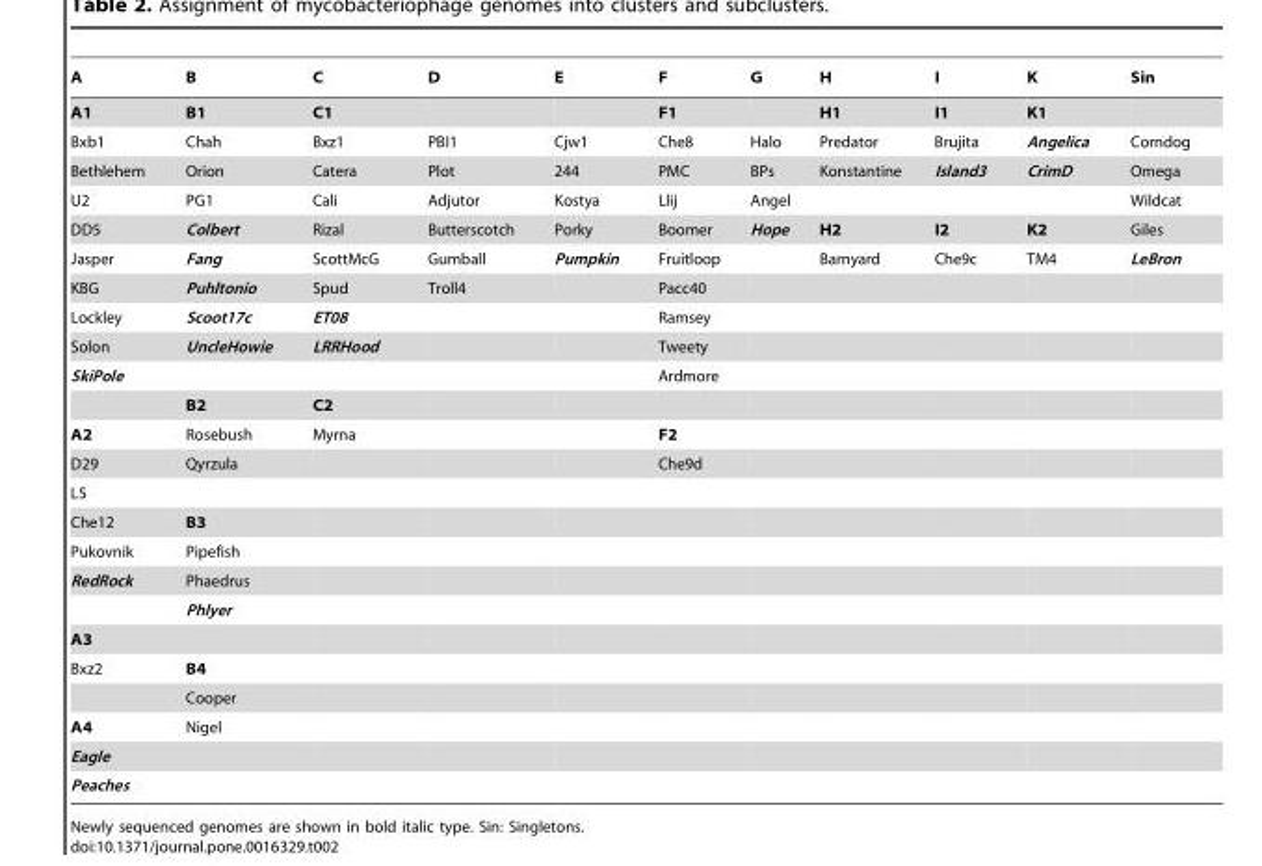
<table><thead><tr><td>A</td><td>B</td><td>C</td><td>D</td><td>E</td><td>F</td><td>G</td><td>H</td><td>I</td><td>K</td><td>Sin</td></tr></thead><tbody><tr><td>A1</td><td>B1</td><td>C1</td><td></td><td></td><td>F1</td><td></td><td>H1</td><td>I1</td><td>K1</td><td></td></tr><tr><td>Bxb1</td><td>Chah</td><td>Bxz1</td><td>PBI1</td><td>Cjw1</td><td>Che8</td><td>Halo</td><td>Predator</td><td>Brujita</td><td>Angelica</td><td>Corndog</td></tr><tr><td>Bethlehem</td><td>Orion</td><td>Catera</td><td>Plot</td><td>244</td><td>PMC</td><td>BPs</td><td>Konstantine</td><td>Island3</td><td>CrimD</td><td>Omega</td></tr><tr><td>U2</td><td>PG1</td><td>Cali</td><td>Adjutor</td><td>Kostya</td><td>Llij</td><td>Angel</td><td></td><td></td><td></td><td>Wildcat</td></tr><tr><td>DD5</td><td>Colbert</td><td>Rizal</td><td>Butterscotch</td><td>Porky</td><td>Boomer</td><td>Hope</td><td>H2</td><td>I2</td><td>K2</td><td>Giles</td></tr><tr><td>Jasper</td><td>Fang</td><td>ScottMcG</td><td>Gumball</td><td>Pumpkin</td><td>Fruitloop</td><td></td><td>Barnyard</td><td>Che9c</td><td>TM4</td><td>LeBron</td></tr><tr><td>KBG</td><td>Puhltonio</td><td>Spud</td><td>Troll4</td><td></td><td>Pacc40</td><td></td><td></td><td></td><td></td><td></td></tr><tr><td>Lockley</td><td>Scoot17c</td><td>ET08</td><td></td><td></td><td>Ramsey</td><td></td><td></td><td></td><td></td><td></td></tr><tr><td>Solon</td><td>UncleHowie</td><td>LRRHood</td><td></td><td></td><td>Tweety</td><td></td><td></td><td></td><td></td><td></td></tr><tr><td rowspan="2">SkiPole</td><td></td><td></td><td></td><td></td><td>Ardmore</td><td></td><td></td><td></td><td></td><td></td></tr><tr><td>B2</td><td>C2</td><td></td><td></td><td></td><td></td><td></td><td></td><td></td><td></td></tr><tr><td>A2</td><td>Rosebush</td><td>Myrna</td><td></td><td></td><td>F2</td><td></td><td></td><td></td><td></td><td></td></tr><tr><td>D29</td><td>Qyrzula</td><td></td><td></td><td></td><td>Che9d</td><td></td><td></td><td></td><td></td><td></td></tr><tr><td colspan="11">L5</td></tr><tr><td>Che12</td><td>B3</td><td></td><td></td><td></td><td></td><td></td><td></td><td></td><td></td><td></td></tr><tr><td>Pukovnik</td><td>Pipefish</td><td></td><td></td><td></td><td></td><td></td><td></td><td></td><td></td><td></td></tr><tr><td rowspan="2">RedRock</td><td>Phaedrus</td><td></td><td></td><td></td><td></td><td></td><td></td><td></td><td></td><td></td></tr><tr><td>Phlyer</td><td></td><td></td><td></td><td></td><td></td><td></td><td></td><td></td><td></td></tr><tr><td colspan="11">A3</td></tr><tr><td rowspan="2">Bxz2</td><td>B4</td><td></td><td></td><td></td><td></td><td></td><td></td><td></td><td></td><td></td></tr><tr><td>Cooper</td><td></td><td></td><td></td><td></td><td></td><td></td><td></td><td></td><td></td></tr><tr><td>A4</td><td>Nigel</td><td></td><td></td><td></td><td></td><td></td><td></td><td></td><td></td><td></td></tr><tr><td colspan="11">Eagle</td></tr><tr><td>Peaches</td><td></td><td></td><td></td><td></td><td></td><td></td><td></td><td></td><td></td><td></td></tr></tbody></table>